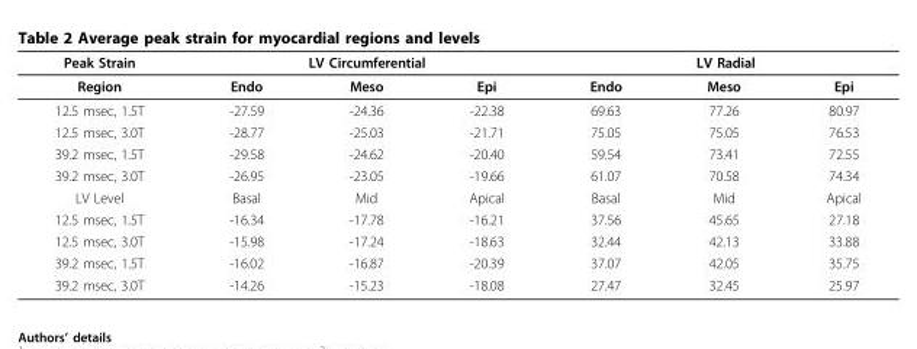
<table><thead><tr><td rowspan="2">Peak Strain Region</td><td colspan="3">LV Circumferential</td><td colspan="3">LV Radial</td></tr><tr><td>Endo</td><td>Meso</td><td>Epi</td><td>Endo</td><td>Meso</td><td>Epi</td></tr></thead><tbody><tr><td>12.5 msec, 1.5T</td><td>-27.59</td><td>-24.36</td><td>-22.38</td><td>69.63</td><td>77.26</td><td>80.97</td></tr><tr><td>12.5 msec, 3.0T</td><td>-28.77</td><td>-25.03</td><td>-21.71</td><td>75.05</td><td>75.05</td><td>76.53</td></tr><tr><td>39.2 msec, 1.5T</td><td>-29.58</td><td>-24.62</td><td>-20.40</td><td>59.54</td><td>73.41</td><td>72.55</td></tr><tr><td>39.2 msec, 3.0T</td><td>-26.95</td><td>-23.05</td><td>-19.66</td><td>61.07</td><td>70.58</td><td>74.34</td></tr><tr><td>LV Level</td><td>Basal</td><td>Mid</td><td>Apical</td><td>Basal</td><td>Mid</td><td>Apical</td></tr><tr><td>12.5 msec, 1.5T</td><td>-16.34</td><td>-17.78</td><td>-16.21</td><td>37.56</td><td>45.65</td><td>27.18</td></tr><tr><td>12.5 msec, 3.0T</td><td>-15.98</td><td>-17.24</td><td>-18.63</td><td>32.44</td><td>42.13</td><td>33.88</td></tr><tr><td>39.2 msec, 1.5T</td><td>-16.02</td><td>-16.87</td><td>-20.39</td><td>37.07</td><td>42.05</td><td>35.75</td></tr><tr><td>39.2 msec, 3.0T</td><td>-14.26</td><td>-15.23</td><td>-18.08</td><td>27.47</td><td>32.45</td><td>25.97</td></tr></tbody></table>